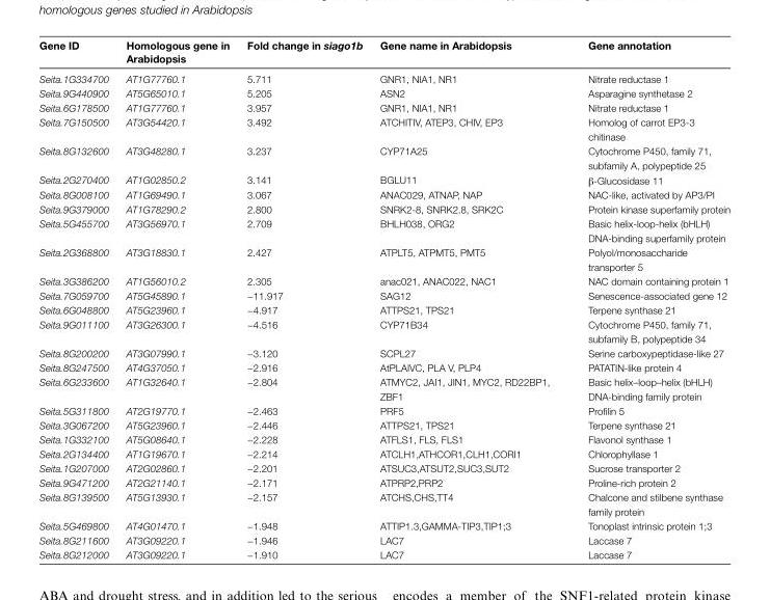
<table><thead><tr><td>Gene ID</td><td>Homologous gene in Arabidopsis</td><td>Fold change in siago1b</td><td>Gene name in Arabidopsis</td><td>Gene annotation</td></tr></thead><tbody><tr><td>Seita.1G334700</td><td>AT1G77760.1</td><td>5.711</td><td>GNR1, NIA1, NR1</td><td>Nitrate reductase 1</td></tr><tr><td>Seita.9G440900</td><td>AT5G65010.1</td><td>5.205</td><td>ASN2</td><td>Asparagine synthetase 2</td></tr><tr><td>Seita.6G178500</td><td>AT1G77760.1</td><td>3.957</td><td>GNR1, NIA1, NR1</td><td>Nitrate reductase 1</td></tr><tr><td>Seita.7G150500</td><td>AT3G54420.1</td><td>3.492</td><td>ATCHITIV, ATEP3, CHIV, EP3</td><td>Homolog of carrot EP3-3 chitinase</td></tr><tr><td>Seita.8G132600</td><td>AT3G48280.1</td><td>3.237</td><td>CYP71A25</td><td>Cytochrome P450, family 71, subfamily A, polypeptide 25</td></tr><tr><td>Seita.2G270400</td><td>AT1G02850.2</td><td>3.141</td><td>BGLU11</td><td>β-Glucosidase 11</td></tr><tr><td>Seita.8G008100</td><td>AT1G69490.1</td><td>3.067</td><td>ANAC029, ATNAP, NAP</td><td>NAC-like, activated by AP3/PI</td></tr><tr><td>Seita.9G379000</td><td>AT1G78290.2</td><td>2.800</td><td>SNRK2-8, SNRK2.8, SRK2C</td><td>Protein kinase superfamily protein</td></tr><tr><td>Seita.5G455700</td><td>AT3G56970.1</td><td>2.709</td><td>BHLH038, ORG2</td><td>Basic helix-loop-helix (bHLH) DNA-binding superfamily protein</td></tr><tr><td>Seita.2G368800</td><td>AT3G18830.1</td><td>2.427</td><td>ATPLT5, ATPMT5, PMT5</td><td>Polyol/monosaccharide transporter 5</td></tr><tr><td>Seita.3G386200</td><td>AT1G56010.2</td><td>2.305</td><td>anac021, ANAC022, NAC1</td><td>NAC domain containing protein 1</td></tr><tr><td>Seita.7G059700</td><td>AT5G45890.1</td><td>−11.917</td><td>SAG12</td><td>Senescence-associated gene 12</td></tr><tr><td>Seita.6G048800</td><td>AT5G23960.1</td><td>−4.917</td><td>ATTPS21, TPS21</td><td>Terpene synthase 21</td></tr><tr><td>Seita.9G011100</td><td>AT3G26300.1</td><td>−4.516</td><td>CYP71B34</td><td>Cytochrome P450, family 71, subfamily B, polypeptide 34</td></tr><tr><td>Seita.8G200200</td><td>AT3G07990.1</td><td>−3.120</td><td>SCPL27</td><td>Serine carboxypeptidase-like 27</td></tr><tr><td>Seita.8G247500</td><td>AT4G37050.1</td><td>−2.916</td><td>AtPLAIVC, PLA V, PLP4</td><td>PATATIN-like protein 4</td></tr><tr><td>Seita.6G233600</td><td>AT1G32640.1</td><td>−2.804</td><td>ATMYC2, JAI1, JIN1, MYC2, RD22BP1, ZBF1</td><td>Basic helix–loop–helix (bHLH) DNA-binding family protein</td></tr><tr><td>Seita.5G311800</td><td>AT2G19770.1</td><td>−2.463</td><td>PRF5</td><td>Profilin 5</td></tr><tr><td>Seita.3G067200</td><td>AT5G23960.1</td><td>−2.446</td><td>ATTPS21, TPS21</td><td>Terpene synthase 21</td></tr><tr><td>Seita.1G332100</td><td>AT5G08640.1</td><td>−2.228</td><td>ATFLS1, FLS, FLS1</td><td>Flavonol synthase 1</td></tr><tr><td>Seita.2G134400</td><td>AT1G19670.1</td><td>−2.214</td><td>ATCLH1,ATHCOR1,CLH1,CORI1</td><td>Chlorophyllase 1</td></tr><tr><td>Seita.1G207000</td><td>AT2G02860.1</td><td>−2.201</td><td>ATSUC3,ATSUT2,SUC3,SUT2</td><td>Sucrose transporter 2</td></tr><tr><td>Seita.9G471200</td><td>AT2G21140.1</td><td>−2.171</td><td>ATPRP2,PRP2</td><td>Proline-rich protein 2</td></tr><tr><td>Seita.8G139500</td><td>AT5G13930.1</td><td>−2.157</td><td>ATCHS,CHS,TT4</td><td>Chalcone and stilbene synthase family protein</td></tr><tr><td>Seita.5G469800</td><td>AT4G01470.1</td><td>−1.948</td><td>ATTIP1.3,GAMMA-TIP3,TIP1;3</td><td>Tonoplast intrinsic protein 1;3</td></tr><tr><td>Seita.8G211600</td><td>AT3G09220.1</td><td>−1.946</td><td>LAC7</td><td>Laccase 7</td></tr><tr><td>Seita.8G212000</td><td>AT3G09220.1</td><td>−1.910</td><td>LAC7</td><td>Laccase 7</td></tr></tbody></table>